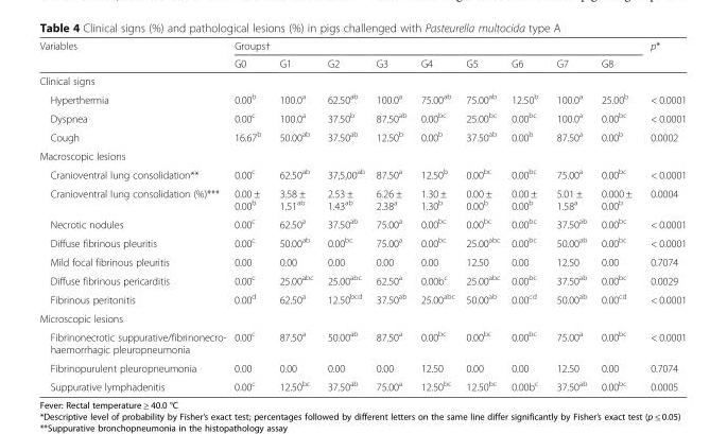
<table><thead><tr><td rowspan="2">Variables</td><td colspan="9">Groups†</td><td rowspan="2">p*</td></tr><tr><td>G0</td><td>G1</td><td>G2</td><td>G3</td><td>G4</td><td>G5</td><td>G6</td><td>G7</td><td>G8</td></tr></thead><tbody><tr><td colspan="11">Clinical signs</td></tr><tr><td>Hyperthermia</td><td>0.00<sup>b</sup></td><td>100.0<sup>a</sup></td><td>62.50<sup>ab</sup></td><td>100.0<sup>a</sup></td><td>75.00<sup>ab</sup></td><td>75.00<sup>ab</sup></td><td>12.50<sup>b</sup></td><td>100.0<sup>a</sup></td><td>25.00<sup>b</sup></td><td>&lt; 0.0001</td></tr><tr><td>Dyspnea</td><td>0.00<sup>c</sup></td><td>100.0<sup>a</sup></td><td>37.50<sup>b</sup></td><td>87.50<sup>ab</sup></td><td>0.00<sup>bc</sup></td><td>25.00<sup>bc</sup></td><td>0.00<sup>bc</sup></td><td>100.0<sup>a</sup></td><td>0.00<sup>bc</sup></td><td>&lt; 0.0001</td></tr><tr><td>Cough</td><td>16.67<sup>b</sup></td><td>50.00<sup>ab</sup></td><td>37.50<sup>ab</sup></td><td>12.50<sup>b</sup></td><td>0.00<sup>b</sup></td><td>37.50<sup>ab</sup></td><td>0.00<sup>b</sup></td><td>87.50<sup>a</sup></td><td>0.00<sup>b</sup></td><td>0.0002</td></tr><tr><td colspan="11">Macroscopic lesions</td></tr><tr><td>Cranioventral lung consolidation**</td><td>0.00<sup>c</sup></td><td>62.50<sup>ab</sup></td><td>37,5,00<sup>ab</sup></td><td>87.50<sup>a</sup></td><td>12.50<sup>b</sup></td><td>0.00<sup>bc</sup></td><td>0.00<sup>bc</sup></td><td>75.00<sup>a</sup></td><td>0.00<sup>bc</sup></td><td>&lt; 0.0001</td></tr><tr><td>Cranioventral lung consolidation (%)***</td><td>0.00 ± 0.00<sup>b</sup></td><td>3.58 ± 1.51<sup>ab</sup></td><td>2.53 ± 1.43<sup>ab</sup></td><td>6.26 ± 2.38<sup>a</sup></td><td>1.30 ± 1.30<sup>b</sup></td><td>0.00 ± 0.00<sup>b</sup></td><td>0.00 ± 0.00<sup>b</sup></td><td>5.01 ± 1.58<sup>a</sup></td><td>0.000 ± 0.00<sup>b</sup></td><td>0.0004</td></tr><tr><td>Necrotic nodules</td><td>0.00<sup>c</sup></td><td>62.50<sup>a</sup></td><td>37.50<sup>ab</sup></td><td>75.00<sup>a</sup></td><td>0.00<sup>bc</sup></td><td>0.00<sup>bc</sup></td><td>0.00<sup>bc</sup></td><td>37.50<sup>ab</sup></td><td>0.00<sup>bc</sup></td><td>&lt; 0.0001</td></tr><tr><td>Diffuse fibrinous pleuritis</td><td>0.00<sup>c</sup></td><td>50.00<sup>ab</sup></td><td>0.00<sup>bc</sup></td><td>75.00<sup>a</sup></td><td>0.00<sup>bc</sup></td><td>25.00<sup>abc</sup></td><td>0.00<sup>bc</sup></td><td>50.00<sup>ab</sup></td><td>0.00<sup>bc</sup></td><td>&lt; 0.0001</td></tr><tr><td>Mild focal fibrinous pleuritis</td><td>0.00</td><td>0.00</td><td>0.00</td><td>0.00</td><td>0.00</td><td>12.50</td><td>0.00</td><td>12.50</td><td>0.00</td><td>0.7074</td></tr><tr><td>Diffuse fibrinous pericarditis</td><td>0.00<sup>c</sup></td><td>25.00<sup>abc</sup></td><td>25.00<sup>abc</sup></td><td>62.50<sup>a</sup></td><td>0.00b<sup>c</sup></td><td>25.00<sup>abc</sup></td><td>0.00<sup>bc</sup></td><td>37.50<sup>ab</sup></td><td>0.00<sup>bc</sup></td><td>0.0029</td></tr><tr><td>Fibrinous peritonitis</td><td>0.00<sup>d</sup></td><td>62.50<sup>a</sup></td><td>12.50<sup>bcd</sup></td><td>37.50<sup>ab</sup></td><td>25.00<sup>abc</sup></td><td>50.00<sup>ab</sup></td><td>0.00<sup>cd</sup></td><td>50.00<sup>ab</sup></td><td>0.00<sup>cd</sup></td><td>&lt; 0.0001</td></tr><tr><td colspan="11">Microscopic lesions</td></tr><tr><td>Fibrinonecrotic suppurative/fibrinonecro- haemorrhagic pleuropneumonia</td><td>0.00<sup>c</sup></td><td>87.50<sup>a</sup></td><td>50.00<sup>ab</sup></td><td>87.50<sup>a</sup></td><td>0.00<sup>bc</sup></td><td>0.00<sup>bc</sup></td><td>0.00<sup>bc</sup></td><td>75.00<sup>a</sup></td><td>0.00<sup>bc</sup></td><td>&lt; 0.0001</td></tr><tr><td>Fibrinopurulent pleuropneumonia</td><td>0.00</td><td>0.00</td><td>0.00</td><td>0.00</td><td>12.50</td><td>0.00</td><td>0.00</td><td>12.50</td><td>0.00</td><td>0.7074</td></tr><tr><td>Suppurative lymphadenitis</td><td>0.00<sup>c</sup></td><td>12.50<sup>bc</sup></td><td>37.50<sup>ab</sup></td><td>75.00<sup>a</sup></td><td>12.50<sup>bc</sup></td><td>12.50<sup>bc</sup></td><td>0.00b<sup>c</sup></td><td>37.50<sup>ab</sup></td><td>0.00<sup>bc</sup></td><td>0.0005</td></tr></tbody></table>